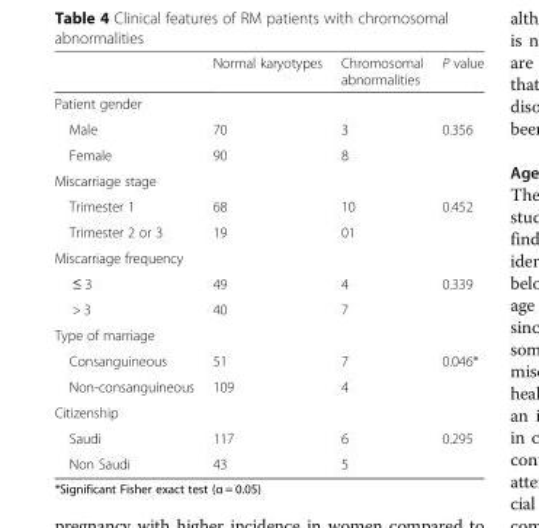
<table><thead><tr><td></td><td>Normal karyotypes</td><td>Chromosomal abnormalities</td><td>P value</td></tr></thead><tbody><tr><td colspan="4">Patient gender</td></tr><tr><td>Male</td><td>70</td><td>3</td><td rowspan="2">0.356</td></tr><tr><td>Female</td><td>90</td><td>8</td></tr><tr><td colspan="4">Miscarriage stage</td></tr><tr><td>Trimester 1</td><td>68</td><td>10</td><td rowspan="2">0.452</td></tr><tr><td>Trimester 2 or 3</td><td>19</td><td>01</td></tr><tr><td colspan="4">Miscarriage frequency</td></tr><tr><td>≤ 3</td><td>49</td><td>4</td><td rowspan="2">0.339</td></tr><tr><td>&gt; 3</td><td>40</td><td>7</td></tr><tr><td colspan="4">Type of marriage</td></tr><tr><td>Consanguineous</td><td>51</td><td>7</td><td>0.046*</td></tr><tr><td>Non-consanguineous</td><td>109</td><td>4</td><td></td></tr><tr><td colspan="4">Citizenship</td></tr><tr><td>Saudi</td><td>117</td><td>6</td><td rowspan="2">0.295</td></tr><tr><td>Non Saudi</td><td>43</td><td>5</td></tr></tbody></table>